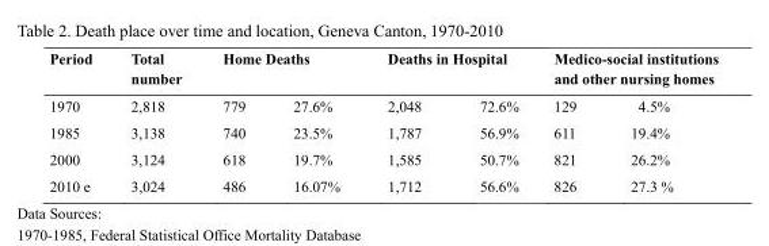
<table><thead><tr><td rowspan="2">Period 1970</td><td rowspan="2">Total number 2,818</td><td colspan="2">Home Deaths</td><td colspan="2">Deaths in Hospital</td><td colspan="2">Medico-social institutions and other nursing homes</td></tr><tr><td>779</td><td>27.6%</td><td>2,048</td><td>72.6%</td><td>129</td><td>4.5%</td></tr></thead><tbody><tr><td>1985</td><td>3,138</td><td>740</td><td>23.5%</td><td>1,787</td><td>56.9%</td><td>611</td><td>19.4%</td></tr><tr><td>2000</td><td>3,124</td><td>618</td><td>19.7%</td><td>1,585</td><td>50.7%</td><td>821</td><td>26.2%</td></tr><tr><td>2010 e</td><td>3,024</td><td>486</td><td>16.07%</td><td>1,712</td><td>56.6%</td><td>826</td><td>27.3 %</td></tr></tbody></table>